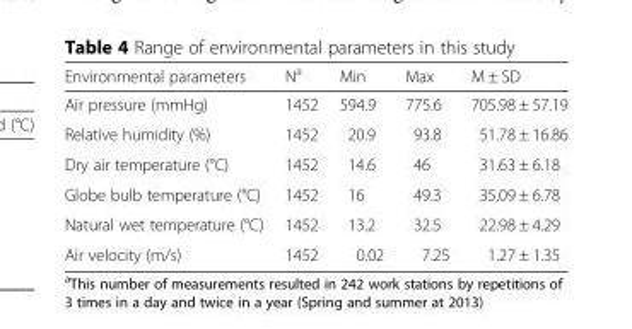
<table><thead><tr><td>Environmental parameters</td><td>N<sup>a</sup></td><td>Min</td><td>Max</td><td>M ± SD</td></tr></thead><tbody><tr><td>Air pressure (mmHg)</td><td>1452</td><td>594.9</td><td>775.6</td><td>705.98 ± 57.19</td></tr><tr><td>Relative humidity (%)</td><td>1452</td><td>20.9</td><td>93.8</td><td>51.78 ± 16.86</td></tr><tr><td>Dry air temperature (°C)</td><td>1452</td><td>14.6</td><td>46</td><td>31.63 ± 6.18</td></tr><tr><td>Globe bulb temperature (°C)</td><td>1452</td><td>16</td><td>49.3</td><td>35.09 ± 6.78</td></tr><tr><td>Natural wet temperature (°C)</td><td>1452</td><td>13.2</td><td>32.5</td><td>22.98 ± 4.29</td></tr><tr><td>Air velocity (m/s)</td><td>1452</td><td>0.02</td><td>7.25</td><td>1.27 ± 1.35</td></tr></tbody></table>